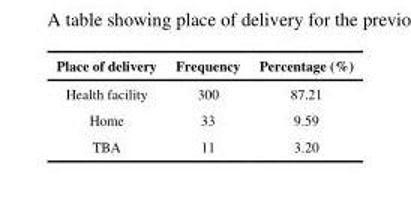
<table><thead><tr><td>Place of delivery</td><td>Frequency</td><td>Percentage (%)</td></tr></thead><tbody><tr><td>Health facility</td><td>300</td><td>87.21</td></tr><tr><td>Home</td><td>33</td><td>9.59</td></tr><tr><td>TBA</td><td>11</td><td>3.20</td></tr></tbody></table>